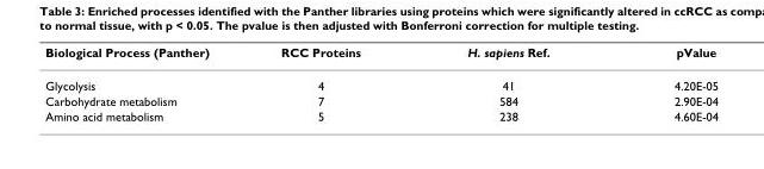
<table><thead><tr><td>Biological Process (Panther)</td><td>RCC Proteins</td><td>H. sapiens Ref.</td><td>pValue</td></tr></thead><tbody><tr><td>Glycolysis</td><td>4</td><td>41</td><td>4.20E-05</td></tr><tr><td>Carbohydrate metabolism</td><td>7</td><td>584</td><td>2.90E-04</td></tr><tr><td>Amino acid metabolism</td><td>5</td><td>238</td><td>4.60E-04</td></tr></tbody></table>